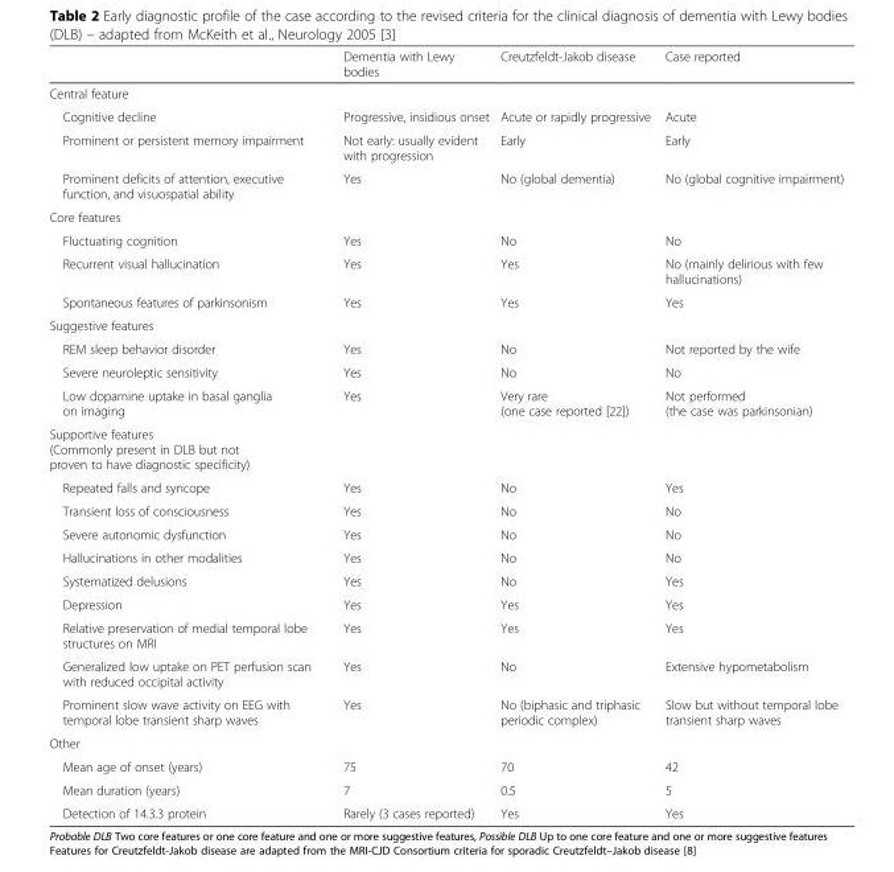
<table><thead><tr><td></td><td>Dementia with Lewy bodies</td><td>Creutzfeldt-Jakob disease</td><td>Case reported</td></tr></thead><tbody><tr><td colspan="4">Central feature</td></tr><tr><td>Cognitive decline</td><td>Progressive, insidious onset</td><td>Acute or rapidly progressive</td><td>Acute</td></tr><tr><td>Prominent or persistent memory impairment</td><td>Not early: usually evident with progression</td><td>Early</td><td>Early</td></tr><tr><td>Prominent deficits of attention, executive function, and visuospatial ability</td><td>Yes</td><td>No (global dementia)</td><td>No (global cognitive impairment)</td></tr><tr><td colspan="4">Core features</td></tr><tr><td>Fluctuating cognition</td><td>Yes</td><td>No</td><td>No</td></tr><tr><td>Recurrent visual hallucination</td><td>Yes</td><td>Yes</td><td>No (mainly delirious with few hallucinations)</td></tr><tr><td>Spontaneous features of parkinsonism</td><td>Yes</td><td>Yes</td><td>Yes</td></tr><tr><td colspan="4">Suggestive features</td></tr><tr><td>REM sleep behavior disorder</td><td>Yes</td><td>No</td><td>Not reported by the wife</td></tr><tr><td>Severe neuroleptic sensitivity</td><td>Yes</td><td>No</td><td>No</td></tr><tr><td>Low dopamine uptake in basal ganglia on imaging</td><td>Yes</td><td>Very rare (one case reported [22])</td><td>Not performed (the case was parkinsonian)</td></tr><tr><td colspan="4">Supportive features (Commonly present in DLB but not proven to have diagnostic specificity)</td></tr><tr><td>Repeated falls and syncope</td><td>Yes</td><td>No</td><td>Yes</td></tr><tr><td>Transient loss of consciousness</td><td>Yes</td><td>No</td><td>No</td></tr><tr><td>Severe autonomic dysfunction</td><td>Yes</td><td>No</td><td>No</td></tr><tr><td>Hallucinations in other modalities</td><td>Yes</td><td>No</td><td>No</td></tr><tr><td>Systematized delusions</td><td>Yes</td><td>No</td><td>Yes</td></tr><tr><td>Depression</td><td>Yes</td><td>Yes</td><td>Yes</td></tr><tr><td>Relative preservation of medial temporal lobe structures on MRI</td><td>Yes</td><td>Yes</td><td>Yes</td></tr><tr><td>Generalized low uptake on PET perfusion scan with reduced occipital activity</td><td>Yes</td><td>No</td><td>Extensive hypometabolism</td></tr><tr><td>Prominent slow wave activity on EEG with temporal lobe transient sharp waves</td><td>Yes</td><td>No (biphasic and triphasic periodic complex)</td><td>Slow but without temporal lobe transient sharp waves</td></tr><tr><td colspan="4">Other</td></tr><tr><td>Mean age of onset (years)</td><td>75</td><td>70</td><td>42</td></tr><tr><td>Mean duration (years)</td><td>7</td><td>0.5</td><td>5</td></tr><tr><td>Detection of 14.3.3 protein</td><td>Rarely (3 cases reported)</td><td>Yes</td><td>Yes</td></tr></tbody></table>